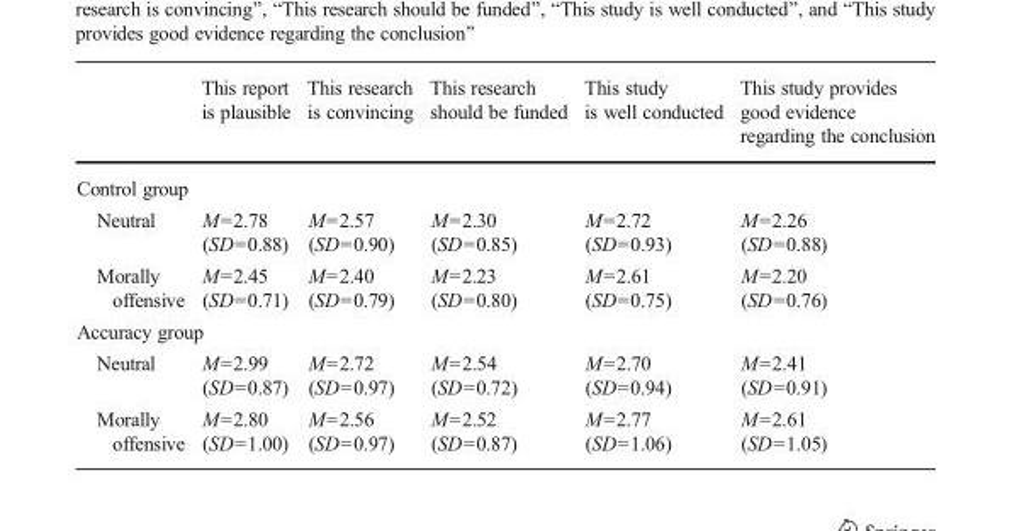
<table><thead><tr><td></td><td>This report is plausible</td><td>This research is convincing</td><td>This research should be funded</td><td>This study is well conducted</td><td>This study provides good evidence regarding the conclusion</td></tr></thead><tbody><tr><td colspan="6">Control group</td></tr><tr><td>Neutral</td><td>M=2.78 (SD=0.88)</td><td>M=2.57 (SD=0.90)</td><td>M=2.30 (SD=0.85)</td><td>M=2.72 (SD=0.93)</td><td>M=2.26 (SD=0.88)</td></tr><tr><td>Morally offensive</td><td>M=2.45 (SD=0.71)</td><td>M=2.40 (SD=0.79)</td><td>M=2.23 (SD=0.80)</td><td>M=2.61 (SD=0.75)</td><td>M=2.20 (SD=0.76)</td></tr><tr><td colspan="6">Accuracy group</td></tr><tr><td>Neutral</td><td>M=2.99 (SD=0.87)</td><td>M=2.72 (SD=0.97)</td><td>M=2.54 (SD=0.72)</td><td>M=2.70 (SD=0.94)</td><td>M=2.41 (SD=0.91)</td></tr><tr><td>Morally offensive</td><td>M=2.80 (SD=1.00)</td><td>M=2.56 (SD=0.97)</td><td>M=2.52 (SD=0.87)</td><td>M=2.77 (SD=1.06)</td><td>M=2.61 (SD=1.05)</td></tr></tbody></table>